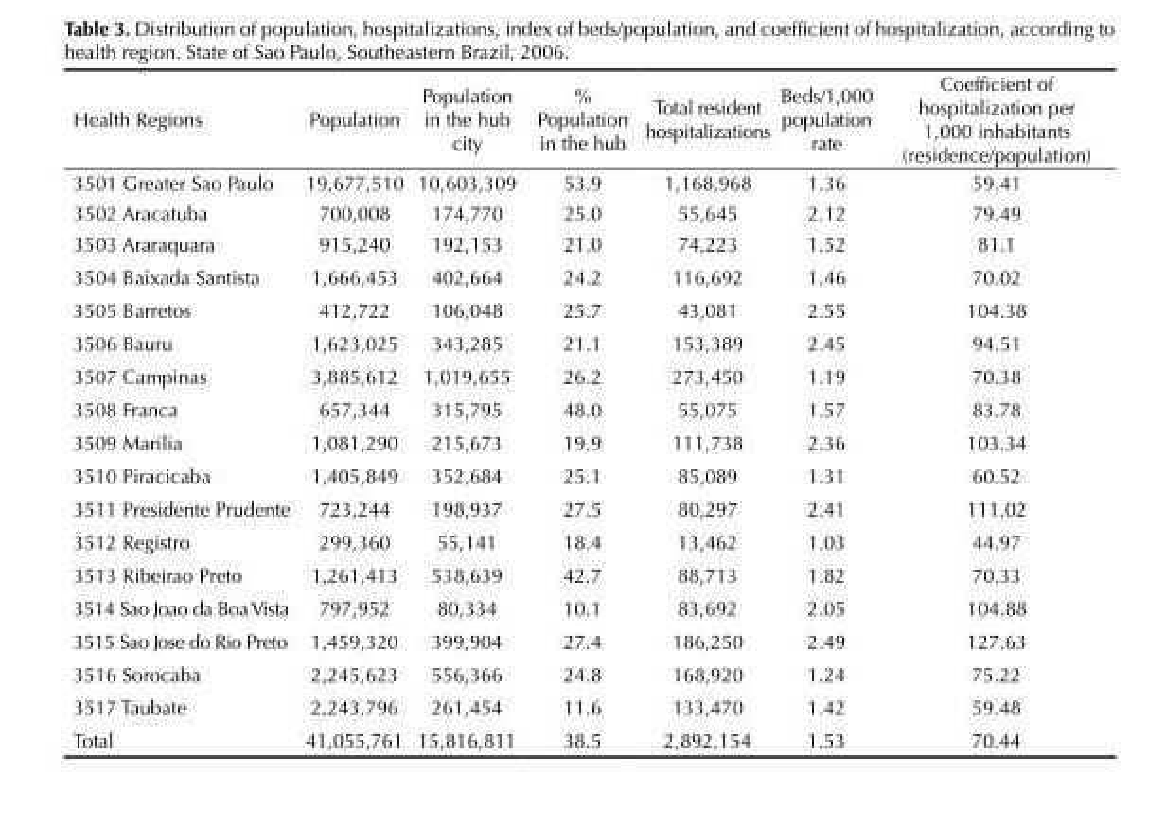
<table><thead><tr><td>Health Regions</td><td>Population</td><td>Population in the hub city</td><td>% Population in the hub</td><td>Total resident hospitalizations</td><td>Beds/1,000 population rate</td><td>Coefficient of hospitalization per 1,000 inhabitants (residence/population)</td></tr></thead><tbody><tr><td>3501 Greater Sao Paulo</td><td>19,677,510</td><td>10,603,309</td><td>53.9</td><td>1,168,968</td><td>1.36</td><td>59.41</td></tr><tr><td>3502 Aracatuba</td><td>700,008</td><td>174,770</td><td>25.0</td><td>55,645</td><td>2.12</td><td>79.49</td></tr><tr><td>3503 Araraquara</td><td>915,240</td><td>192,153</td><td>21.0</td><td>74,223</td><td>1.52</td><td>81.1</td></tr><tr><td>3504 Baixada Santista</td><td>1,666,453</td><td>402,664</td><td>24.2</td><td>116,692</td><td>1.46</td><td>70.02</td></tr><tr><td>3505 Barretos</td><td>412,722</td><td>106,048</td><td>25.7</td><td>43,081</td><td>2.55</td><td>104.38</td></tr><tr><td>3506 Bauru</td><td>1,623,025</td><td>343,285</td><td>21.1</td><td>153,389</td><td>2.45</td><td>94.51</td></tr><tr><td>3507 Campinas</td><td>3,885,612</td><td>1,019,655</td><td>26.2</td><td>273,450</td><td>1.19</td><td>70.38</td></tr><tr><td>3508 Franca</td><td>657,344</td><td>315,795</td><td>48.0</td><td>55,075</td><td>1.57</td><td>83.78</td></tr><tr><td>3509 Marilia</td><td>1,081,290</td><td>215,673</td><td>19.9</td><td>111,738</td><td>2.36</td><td>103.34</td></tr><tr><td>3510 Piracicaba</td><td>1,405,849</td><td>352,684</td><td>25.1</td><td>85,089</td><td>1.31</td><td>60.52</td></tr><tr><td>3511 Presidente Prudente</td><td>723,244</td><td>198,937</td><td>27.5</td><td>80,297</td><td>2.41</td><td>111.02</td></tr><tr><td>3512 Registro</td><td>299,360</td><td>55,141</td><td>18.4</td><td>13,462</td><td>1.03</td><td>44.97</td></tr><tr><td>3513 Ribeirao Preto</td><td>1,261,413</td><td>538,639</td><td>42.7</td><td>88,713</td><td>1.82</td><td>70.33</td></tr><tr><td>3514 Sao Joao da Boa Vista</td><td>797,952</td><td>80,334</td><td>10.1</td><td>83,692</td><td>2.05</td><td>104.88</td></tr><tr><td>3515 Sao Jose do Rio Preto</td><td>1,459,320</td><td>399,904</td><td>27.4</td><td>186,250</td><td>2.49</td><td>127.63</td></tr><tr><td>3516 Sorocaba</td><td>2,245,623</td><td>556,366</td><td>24.8</td><td>168,920</td><td>1.24</td><td>75.22</td></tr><tr><td>3517 Taubate</td><td>2,243,796</td><td>261,454</td><td>11.6</td><td>133,470</td><td>1.42</td><td>59.48</td></tr><tr><td>Total</td><td>41,055,761</td><td>15,816,811</td><td>38.5</td><td>2,892,154</td><td>1.53</td><td>70.44</td></tr></tbody></table>